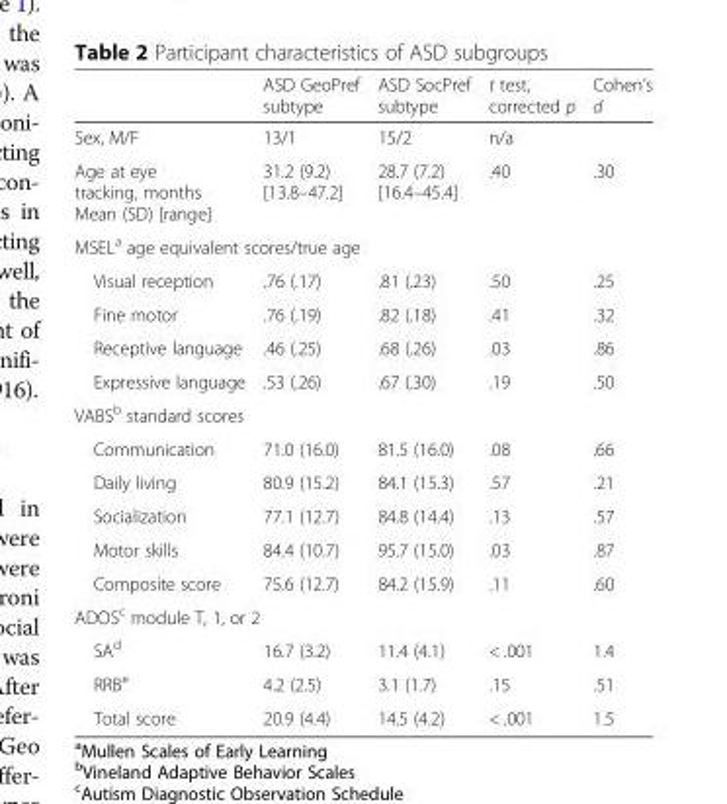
<table><thead><tr><td></td><td>ASD GeoPref subtype</td><td>ASD SocPref subtype</td><td>t test, corrected p</td><td>Cohen’s d</td></tr></thead><tbody><tr><td>Sex, M/F</td><td>13/1</td><td>15/2</td><td>n/a</td><td></td></tr><tr><td>Age at eye tracking, months Mean (SD) [range]</td><td>31.2 (9.2) [13.8–47.2]</td><td>28.7 (7.2) [16.4–45.4]</td><td>.40</td><td>.30</td></tr><tr><td colspan="5">MSEL<sup>a</sup> age equivalent scores/true age</td></tr><tr><td>Visual reception</td><td>.76 (.17)</td><td>.81 (.23)</td><td>.50</td><td>.25</td></tr><tr><td>Fine motor</td><td>.76 (.19)</td><td>.82 (.18)</td><td>.41</td><td>.32</td></tr><tr><td>Receptive language</td><td>.46 (.25)</td><td>.68 (.26)</td><td>.03</td><td>.86</td></tr><tr><td>Expressive language</td><td>.53 (.26)</td><td>.67 (.30)</td><td>.19</td><td>.50</td></tr><tr><td colspan="5">VABS<sup>b</sup> standard scores</td></tr><tr><td>Communication</td><td>71.0 (16.0)</td><td>81.5 (16.0)</td><td>.08</td><td>.66</td></tr><tr><td>Daily living</td><td>80.9 (15.2)</td><td>84.1 (15.3)</td><td>.57</td><td>.21</td></tr><tr><td>Socialization</td><td>77.1 (12.7)</td><td>84.8 (14.4)</td><td>.13</td><td>.57</td></tr><tr><td>Motor skills</td><td>84.4 (10.7)</td><td>95.7 (15.0)</td><td>.03</td><td>.87</td></tr><tr><td>Composite score</td><td>75.6 (12.7)</td><td>84.2 (15.9)</td><td>.11</td><td>.60</td></tr><tr><td colspan="5">ADOS<sup>c</sup> module T, 1, or 2</td></tr><tr><td>SA<sup>d</sup></td><td>16.7 (3.2)</td><td>11.4 (4.1)</td><td>&lt; .001</td><td>1.4</td></tr><tr><td>RRB<sup>e</sup></td><td>4.2 (2.5)</td><td>3.1 (1.7)</td><td>.15</td><td>.51</td></tr><tr><td>Total score</td><td>20.9 (4.4)</td><td>14.5 (4.2)</td><td>&lt; .001</td><td>1.5</td></tr></tbody></table>